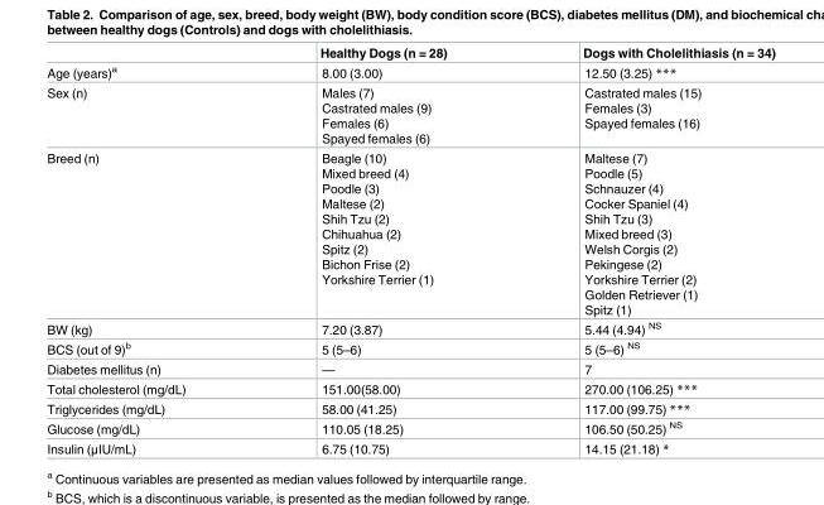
<table><thead><tr><td></td><td>Healthy Dogs (n = 28)</td><td>Dogs with Cholelithiasis (n = 34)</td></tr></thead><tbody><tr><td>Age (years)<sup>a</sup></td><td>8.00 (3.00)</td><td>12.50 (3.25) ***</td></tr><tr><td>Sex (n)</td><td>Males (7) Castrated males (9) Females (6) Spayed females (6)</td><td>Castrated males (15) Females (3) Spayed females (16)</td></tr><tr><td>Breed (n)</td><td>Beagle (10) Mixed breed (4) Poodle (3) Maltese (2) Shih Tzu (2) Chihuahua (2) Spitz (2) Bichon Frise (2) Yorkshire Terrier (1)</td><td>Maltese (7) Poodle (5) Schnauzer (4) Cocker Spaniel (4) Shih Tzu (3) Mixed breed (3) Welsh Corgis (2) Pekingese (2) Yorkshire Terrier (2) Golden Retriever (1) Spitz (1)</td></tr><tr><td>BW (kg)</td><td>7.20 (3.87)</td><td>5.44 (4.94) <sup>NS</sup></td></tr><tr><td>BCS (out of 9)<sup>b</sup></td><td>5 (5–6)</td><td>5 (5–6) <sup>NS</sup></td></tr><tr><td>Diabetes mellitus (n)</td><td>—</td><td>7</td></tr><tr><td>Total cholesterol (mg/dL)</td><td>151.00(58.00)</td><td>270.00 (106.25) ***</td></tr><tr><td>Triglycerides (mg/dL)</td><td>58.00 (41.25)</td><td>117.00 (99.75) ***</td></tr><tr><td>Glucose (mg/dL)</td><td>110.05 (18.25)</td><td>106.50 (50.25) <sup>NS</sup></td></tr><tr><td>Insulin (μIU/mL)</td><td>6.75 (10.75)</td><td>14.15 (21.18) *</td></tr></tbody></table>